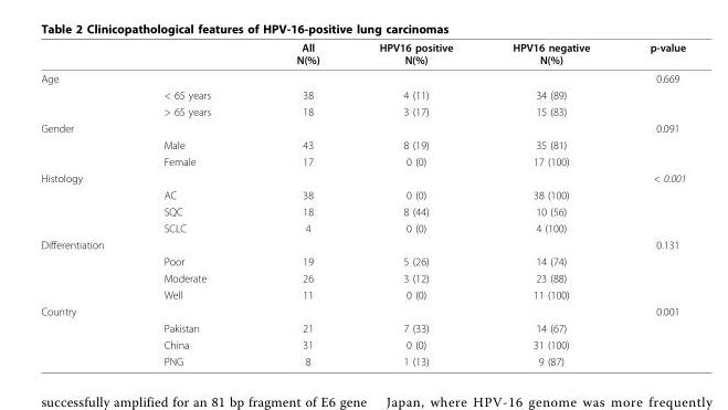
<table><thead><tr><td></td><td></td><td>All N(%)</td><td>HPV16 positive N(%)</td><td>HPV16 negative N(%)</td><td>p-value</td></tr></thead><tbody><tr><td rowspan="3">Age</td><td></td><td></td><td></td><td></td><td>0.669</td></tr><tr><td>&lt; 65 years</td><td>38</td><td>4 (11)</td><td>34 (89)</td><td></td></tr><tr><td>&gt; 65 years</td><td>18</td><td>3 (17)</td><td>15 (83)</td><td></td></tr><tr><td rowspan="3">Gender</td><td></td><td></td><td></td><td></td><td>0.091</td></tr><tr><td>Male</td><td>43</td><td>8 (19)</td><td>35 (81)</td><td></td></tr><tr><td>Female</td><td>17</td><td>0 (0)</td><td>17 (100)</td><td></td></tr><tr><td rowspan="4">Histology</td><td></td><td></td><td></td><td></td><td>&lt; 0.001</td></tr><tr><td>AC</td><td>38</td><td>0 (0)</td><td>38 (100)</td><td></td></tr><tr><td>SQC</td><td>18</td><td>8 (44)</td><td>10 (56)</td><td></td></tr><tr><td>SCLC</td><td>4</td><td>0 (0)</td><td>4 (100)</td><td></td></tr><tr><td rowspan="4">Differentiation</td><td></td><td></td><td></td><td></td><td>0.131</td></tr><tr><td>Poor</td><td>19</td><td>5 (26)</td><td>14 (74)</td><td></td></tr><tr><td>Moderate</td><td>26</td><td>3 (12)</td><td>23 (88)</td><td></td></tr><tr><td>Well</td><td>11</td><td>0 (0)</td><td>11 (100)</td><td></td></tr><tr><td rowspan="4">Country</td><td></td><td></td><td></td><td></td><td>0.001</td></tr><tr><td>Pakistan</td><td>21</td><td>7 (33)</td><td>14 (67)</td><td></td></tr><tr><td>China</td><td>31</td><td>0 (0)</td><td>31 (100)</td><td></td></tr><tr><td>PNG</td><td>8</td><td>1 (13)</td><td>9 (87)</td><td></td></tr></tbody></table>